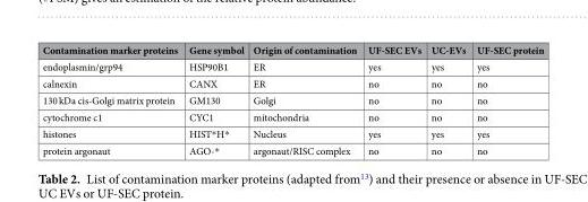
<table><thead><tr><td>Contamination marker proteins</td><td>Gene symbol</td><td>Origin of contamination</td><td>UF-SEC EVs</td><td>UC-EVs</td><td>UF-SEC protein</td></tr></thead><tbody><tr><td>endoplasmin/grp94</td><td>HSP90B1</td><td>ER</td><td>yes</td><td>yes</td><td>yes</td></tr><tr><td>calnexin</td><td>CANX</td><td>ER</td><td>no</td><td>no</td><td>no</td></tr><tr><td>130 kDa cis-Golgi matrix protein</td><td>GM130</td><td>Golgi</td><td>no</td><td>no</td><td>no</td></tr><tr><td>cytochrome c1</td><td>CYC1</td><td>mitochondria</td><td>no</td><td>no</td><td>no</td></tr><tr><td>histones</td><td>HIST*H*</td><td>Nucleus</td><td>yes</td><td>yes</td><td>yes</td></tr><tr><td>protein argonaut</td><td>AGO-*</td><td>argonaut/RISC complex</td><td>no</td><td>no</td><td>no</td></tr></tbody></table>